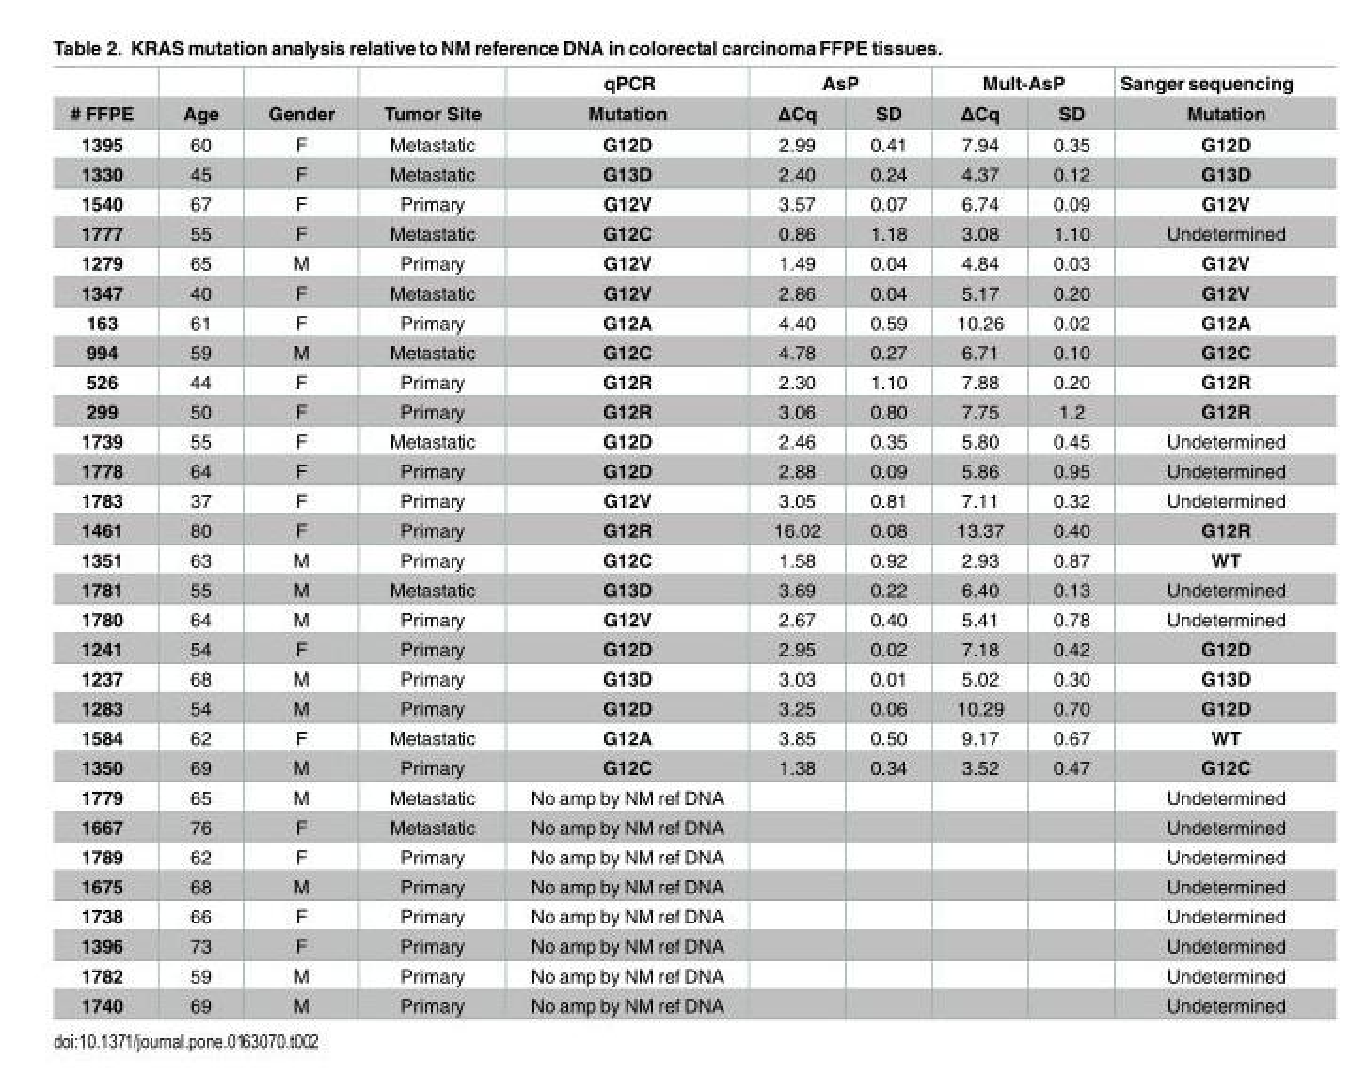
<table><thead><tr><td rowspan="2"># FFPE</td><td rowspan="2">Age</td><td rowspan="2">Gender</td><td rowspan="2">Tumor Site</td><td rowspan="2">qPCR Mutation</td><td colspan="2">AsP</td><td colspan="2">Mult-AsP</td><td rowspan="2">Sanger sequencing Mutation</td></tr><tr><td>ΔCq</td><td>SD</td><td>ΔCq</td><td>SD</td></tr></thead><tbody><tr><td>1395</td><td>60</td><td>F</td><td>Metastatic</td><td>G12D</td><td>2.99</td><td>0.41</td><td>7.94</td><td>0.35</td><td>G12D</td></tr><tr><td>1330</td><td>45</td><td>F</td><td>Metastatic</td><td>G13D</td><td>2.40</td><td>0.24</td><td>4.37</td><td>0.12</td><td>G13D</td></tr><tr><td>1540</td><td>67</td><td>F</td><td>Primary</td><td>G12V</td><td>3.57</td><td>0.07</td><td>6.74</td><td>0.09</td><td>G12V</td></tr><tr><td>1777</td><td>55</td><td>F</td><td>Metastatic</td><td>G12C</td><td>0.86</td><td>1.18</td><td>3.08</td><td>1.10</td><td>Undetermined</td></tr><tr><td>1279</td><td>65</td><td>M</td><td>Primary</td><td>G12V</td><td>1.49</td><td>0.04</td><td>4.84</td><td>0.03</td><td>G12V</td></tr><tr><td>1347</td><td>40</td><td>F</td><td>Metastatic</td><td>G12V</td><td>2.86</td><td>0.04</td><td>5.17</td><td>0.20</td><td>G12V</td></tr><tr><td>163</td><td>61</td><td>F</td><td>Primary</td><td>G12A</td><td>4.40</td><td>0.59</td><td>10.26</td><td>0.02</td><td>G12A</td></tr><tr><td>994</td><td>59</td><td>M</td><td>Metastatic</td><td>G12C</td><td>4.78</td><td>0.27</td><td>6.71</td><td>0.10</td><td>G12C</td></tr><tr><td>526</td><td>44</td><td>F</td><td>Primary</td><td>G12R</td><td>2.30</td><td>1.10</td><td>7.88</td><td>0.20</td><td>G12R</td></tr><tr><td>299</td><td>50</td><td>F</td><td>Primary</td><td>G12R</td><td>3.06</td><td>0.80</td><td>7.75</td><td>1.2</td><td>G12R</td></tr><tr><td>1739</td><td>55</td><td>F</td><td>Metastatic</td><td>G12D</td><td>2.46</td><td>0.35</td><td>5.80</td><td>0.45</td><td>Undetermined</td></tr><tr><td>1778</td><td>64</td><td>F</td><td>Primary</td><td>G12D</td><td>2.88</td><td>0.09</td><td>5.86</td><td>0.95</td><td>Undetermined</td></tr><tr><td>1783</td><td>37</td><td>F</td><td>Primary</td><td>G12V</td><td>3.05</td><td>0.81</td><td>7.11</td><td>0.32</td><td>Undetermined</td></tr><tr><td>1461</td><td>80</td><td>F</td><td>Primary</td><td>G12R</td><td>16.02</td><td>0.08</td><td>13.37</td><td>0.40</td><td>G12R</td></tr><tr><td>1351</td><td>63</td><td>M</td><td>Primary</td><td>G12C</td><td>1.58</td><td>0.92</td><td>2.93</td><td>0.87</td><td>WT</td></tr><tr><td>1781</td><td>55</td><td>M</td><td>Metastatic</td><td>G13D</td><td>3.69</td><td>0.22</td><td>6.40</td><td>0.13</td><td>Undetermined</td></tr><tr><td>1780</td><td>64</td><td>M</td><td>Primary</td><td>G12V</td><td>2.67</td><td>0.40</td><td>5.41</td><td>0.78</td><td>Undetermined</td></tr><tr><td>1241</td><td>54</td><td>F</td><td>Primary</td><td>G12D</td><td>2.95</td><td>0.02</td><td>7.18</td><td>0.42</td><td>G12D</td></tr><tr><td>1237</td><td>68</td><td>M</td><td>Primary</td><td>G13D</td><td>3.03</td><td>0.01</td><td>5.02</td><td>0.30</td><td>G13D</td></tr><tr><td>1283</td><td>54</td><td>M</td><td>Primary</td><td>G12D</td><td>3.25</td><td>0.06</td><td>10.29</td><td>0.70</td><td>G12D</td></tr><tr><td>1584</td><td>62</td><td>F</td><td>Metastatic</td><td>G12A</td><td>3.85</td><td>0.50</td><td>9.17</td><td>0.67</td><td>WT</td></tr><tr><td>1350</td><td>69</td><td>M</td><td>Primary</td><td>G12C</td><td>1.38</td><td>0.34</td><td>3.52</td><td>0.47</td><td>G12C</td></tr><tr><td>1779</td><td>65</td><td>M</td><td>Metastatic</td><td>No amp by NM ref DNA</td><td></td><td></td><td></td><td></td><td>Undetermined</td></tr><tr><td>1667</td><td>76</td><td>F</td><td>Metastatic</td><td>No amp by NM ref DNA</td><td></td><td></td><td></td><td></td><td>Undetermined</td></tr><tr><td>1789</td><td>62</td><td>F</td><td>Primary</td><td>No amp by NM ref DNA</td><td></td><td></td><td></td><td></td><td>Undetermined</td></tr><tr><td>1675</td><td>68</td><td>M</td><td>Primary</td><td>No amp by NM ref DNA</td><td></td><td></td><td></td><td></td><td>Undetermined</td></tr><tr><td>1738</td><td>66</td><td>F</td><td>Primary</td><td>No amp by NM ref DNA</td><td></td><td></td><td></td><td></td><td>Undetermined</td></tr><tr><td>1396</td><td>73</td><td>F</td><td>Primary</td><td>No amp by NM ref DNA</td><td></td><td></td><td></td><td></td><td>Undetermined</td></tr><tr><td>1782</td><td>59</td><td>M</td><td>Primary</td><td>No amp by NM ref DNA</td><td></td><td></td><td></td><td></td><td>Undetermined</td></tr><tr><td>1740</td><td>69</td><td>M</td><td>Primary</td><td>No amp by NM ref DNA</td><td></td><td></td><td></td><td></td><td>Undetermined</td></tr></tbody></table>